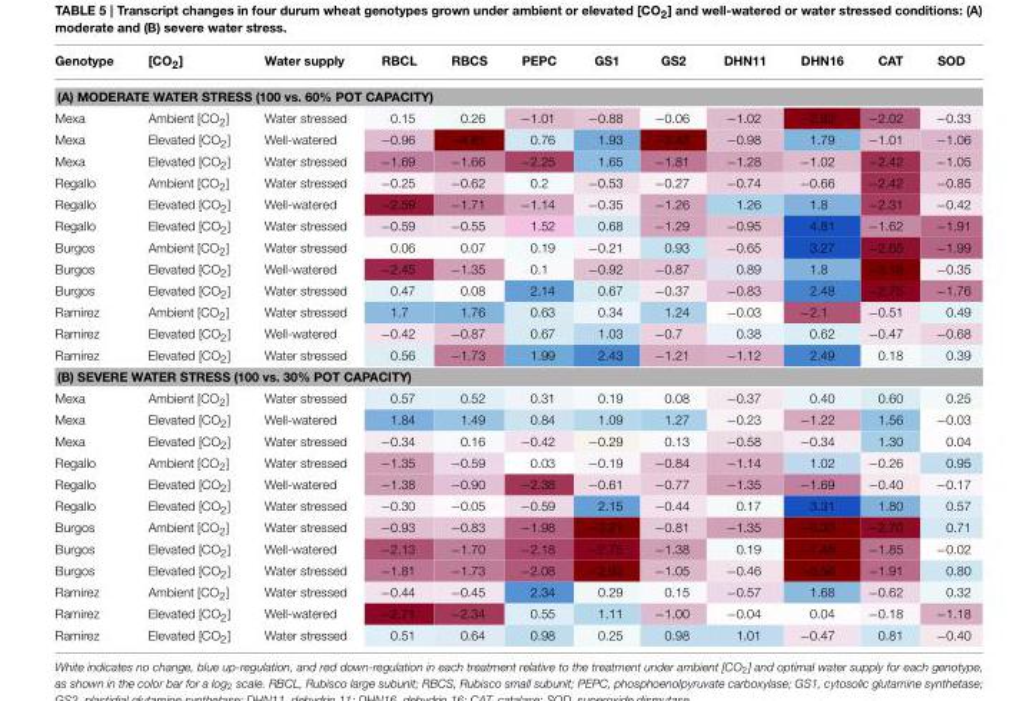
<table><thead><tr><td>Genotype</td><td>[CO<sub>2</sub>]</td><td>Water supply</td><td>RBCL</td><td>RBCS</td><td>PEPC</td><td>GS1</td><td>GS2</td><td>DHN11</td><td>DHN16</td><td>CAT</td><td>SOD</td></tr></thead><tbody><tr><td colspan="12">(A) MODERATE WATER STRESS (100 vs. 60% POT CAPACITY)</td></tr><tr><td>Mexa</td><td>Ambient [CO<sub>2</sub>]</td><td>Water stressed</td><td>0.15</td><td>0.26</td><td>−1.01</td><td>−0.88</td><td>−0.06</td><td>−1.02</td><td>−2.83</td><td>−2.02</td><td>−0.33</td></tr><tr><td>Mexa</td><td>Elevated [CO<sub>2</sub>]</td><td>Well-watered</td><td>−0.96</td><td>−4.81</td><td>0.76</td><td>1.93</td><td>−3.43</td><td>−0.98</td><td>1.79</td><td>−1.01</td><td>−1.06</td></tr><tr><td>Mexa</td><td>Elevated [CO<sub>2</sub>]</td><td>Water stressed</td><td>−1.69</td><td>−1.66</td><td>−2.25</td><td>1.65</td><td>−1.81</td><td>−1.28</td><td>−1.02</td><td>−2.42</td><td>−1.05</td></tr><tr><td>Regallo</td><td>Ambient [CO<sub>2</sub>]</td><td>Water stressed</td><td>−0.25</td><td>−0.62</td><td>0.2</td><td>−0.53</td><td>−0.27</td><td>−0.74</td><td>−0.66</td><td>−2.42</td><td>−0.85</td></tr><tr><td>Regallo</td><td>Elevated [CO<sub>2</sub>]</td><td>Well-watered</td><td>−2.59</td><td>−1.71</td><td>−1.14</td><td>−0.35</td><td>−1.26</td><td>1.26</td><td>1.8</td><td>−2.31</td><td>−0.42</td></tr><tr><td>Regallo</td><td>Elevated [CO<sub>2</sub>]</td><td>Water stressed</td><td>−0.59</td><td>−0.55</td><td>1.52</td><td>0.68</td><td>−1.29</td><td>−0.95</td><td>4.81</td><td>−1.62</td><td>−1.91</td></tr><tr><td>Burgos</td><td>Ambient [CO<sub>2</sub>]</td><td>Water stressed</td><td>0.06</td><td>0.07</td><td>0.19</td><td>−0.21</td><td>0.93</td><td>−0.65</td><td>3.27</td><td>−2.65</td><td>−1.99</td></tr><tr><td>Burgos</td><td>Elevated [CO<sub>2</sub>]</td><td>Well-watered</td><td>−2.45</td><td>−1.35</td><td>0.1</td><td>−0.92</td><td>−0.87</td><td>0.89</td><td>1.8</td><td>−3.18</td><td>−0.35</td></tr><tr><td>Burgos</td><td>Elevated [CO<sub>2</sub>]</td><td>Water stressed</td><td>0.47</td><td>0.08</td><td>2.14</td><td>0.67</td><td>−0.37</td><td>−0.83</td><td>2.48</td><td>−2.75</td><td>−1.76</td></tr><tr><td>Ramirez</td><td>Ambient [CO<sub>2</sub>]</td><td>Water stressed</td><td>1.7</td><td>1.76</td><td>0.63</td><td>0.34</td><td>1.24</td><td>−0.03</td><td>−2.1</td><td>−0.51</td><td>0.49</td></tr><tr><td>Ramirez</td><td>Elevated [CO<sub>2</sub>]</td><td>Well-watered</td><td>−0.42</td><td>−0.87</td><td>0.67</td><td>1.03</td><td>−0.7</td><td>0.38</td><td>0.62</td><td>−0.47</td><td>−0.68</td></tr><tr><td>Ramirez</td><td>Elevated [CO<sub>2</sub>]</td><td>Water stressed</td><td>0.56</td><td>−1.73</td><td>1.99</td><td>2.43</td><td>−1.21</td><td>−1.12</td><td>2.49</td><td>0.18</td><td>0.39</td></tr><tr><td colspan="12">(B) SEVERE WATER STRESS (100 vs. 30% POT CAPACITY)</td></tr><tr><td>Mexa</td><td>Ambient [CO<sub>2</sub>]</td><td>Water stressed</td><td>0.57</td><td>0.52</td><td>0.31</td><td>0.19</td><td>0.08</td><td>−0.37</td><td>0.40</td><td>0.60</td><td>0.25</td></tr><tr><td>Mexa</td><td>Elevated [CO<sub>2</sub>]</td><td>Well-watered</td><td>1.84</td><td>1.49</td><td>0.84</td><td>1.09</td><td>1.27</td><td>−0.23</td><td>−1.22</td><td>1.56</td><td>−0.03</td></tr><tr><td>Mexa</td><td>Elevated [CO<sub>2</sub>]</td><td>Water stressed</td><td>−0.34</td><td>0.16</td><td>−0.42</td><td>−0.29</td><td>0.13</td><td>−0.58</td><td>−0.34</td><td>1.30</td><td>0.04</td></tr><tr><td>Regallo</td><td>Ambient [CO<sub>2</sub>]</td><td>Water stressed</td><td>−1.35</td><td>−0.59</td><td>0.03</td><td>−0.19</td><td>−0.84</td><td>−1.14</td><td>1.02</td><td>−0.26</td><td>0.95</td></tr><tr><td>Regallo</td><td>Elevated [CO<sub>2</sub>]</td><td>Well-watered</td><td>−1.38</td><td>−0.90</td><td>−2.38</td><td>−0.61</td><td>−0.77</td><td>−1.35</td><td>−1.69</td><td>−0.40</td><td>−0.17</td></tr><tr><td>Regallo</td><td>Elevated [CO<sub>2</sub>]</td><td>Water stressed</td><td>−0.30</td><td>−0.05</td><td>−0.59</td><td>2.15</td><td>−0.44</td><td>0.17</td><td>3.31</td><td>1.80</td><td>0.57</td></tr><tr><td>Burgos</td><td>Ambient [CO<sub>2</sub>]</td><td>Water stressed</td><td>−0.93</td><td>−0.83</td><td>−1.98</td><td>−3.21</td><td>−0.81</td><td>−1.35</td><td>−6.30</td><td>−2.70</td><td>0.71</td></tr><tr><td>Burgos</td><td>Elevated [CO<sub>2</sub>]</td><td>Well-watered</td><td>−2.13</td><td>−1.70</td><td>−2.18</td><td>−2.75</td><td>−1.38</td><td>0.19</td><td>−7.46</td><td>−1.85</td><td>−0.02</td></tr><tr><td>Burgos</td><td>Elevated [CO<sub>2</sub>]</td><td>Water stressed</td><td>−1.81</td><td>−1.73</td><td>−2.08</td><td>−2.92</td><td>−1.05</td><td>−0.46</td><td>−5.56</td><td>−1.91</td><td>0.80</td></tr><tr><td>Ramirez</td><td>Ambient [CO<sub>2</sub>]</td><td>Water stressed</td><td>−0.44</td><td>−0.45</td><td>2.34</td><td>0.29</td><td>0.15</td><td>−0.57</td><td>1.68</td><td>−0.62</td><td>0.32</td></tr><tr><td>Ramirez</td><td>Elevated [CO<sub>2</sub>]</td><td>Well-watered</td><td>−2.71</td><td>−2.34</td><td>0.55</td><td>1.11</td><td>−1.00</td><td>−0.04</td><td>0.04</td><td>−0.18</td><td>−1.18</td></tr><tr><td>Ramirez</td><td>Elevated [CO<sub>2</sub>]</td><td>Water stressed</td><td>0.51</td><td>0.64</td><td>0.98</td><td>0.25</td><td>0.98</td><td>1.01</td><td>−0.47</td><td>0.81</td><td>−0.40</td></tr></tbody></table>